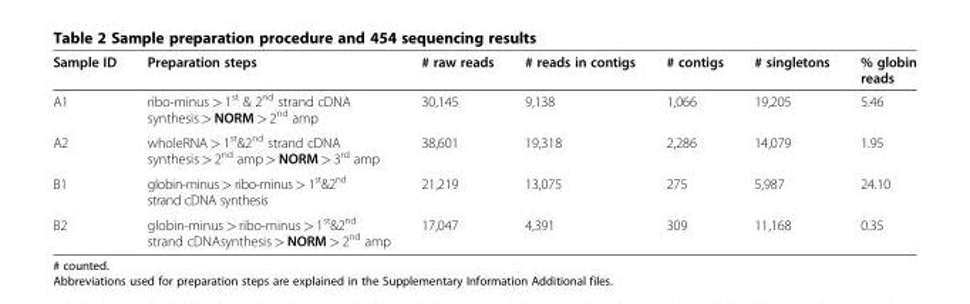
<table><thead><tr><td>Sample ID</td><td>Preparation steps</td><td># raw reads</td><td># reads in contigs</td><td># contigs</td><td># singletons</td><td>% globin reads</td></tr></thead><tbody><tr><td>A1</td><td>ribo-minus &gt; 1<sup>st</sup> &amp; 2<sup>nd</sup> strand cDNA synthesis &gt; NORM &gt; 2<sup>nd</sup> amp</td><td>30,145</td><td>9,138</td><td>1,066</td><td>19,205</td><td>5.46</td></tr><tr><td>A2</td><td>wholeRNA &gt; 1<sup>st</sup>&amp;2<sup>nd</sup> strand cDNA synthesis &gt; 2<sup>nd</sup> amp &gt; NORM &gt; 3<sup>rd</sup> amp</td><td>38,601</td><td>19,318</td><td>2,286</td><td>14,079</td><td>1.95</td></tr><tr><td>B1</td><td>globin-minus&gt; ribo-minus&gt; 1<sup>st</sup>&amp;2<sup>nd</sup> strand cDNA synthesis</td><td>21,219</td><td>13,075</td><td>275</td><td>5,987</td><td>24.10</td></tr><tr><td>B2</td><td>globin-minus &gt; ribo-minus &gt; 1<sup>st</sup>&amp;2<sup>nd</sup> strand cDNAsynthesis &gt; NORM &gt; 2<sup>nd</sup> amp</td><td>17,047</td><td>4,391</td><td>309</td><td>11,168</td><td>0.35</td></tr></tbody></table>